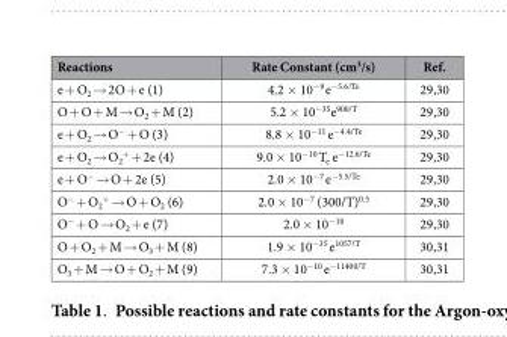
<table><thead><tr><td>Reactions</td><td>Rate Constant (cm<sup>3</sup>/s)</td><td>Ref.</td></tr></thead><tbody><tr><td>e + O<sub>2</sub> → 2O + e (1)</td><td>4.2 × 10<sup>−9</sup> e<sup>−5.6/Te</sup></td><td>29,30</td></tr><tr><td>O + O + M → O<sub>2</sub> + M (2)</td><td>5.2 × 10<sup>−35</sup>e<sup>900/T</sup></td><td>29,30</td></tr><tr><td>e + O<sub>2</sub> → O<sup>−</sup> + O (3)</td><td>8.8 × 10<sup>−11</sup> e<sup>−4.4/Te</sup></td><td>29,30</td></tr><tr><td>e + O<sub>2</sub> → O<sub>2</sub> <sup>+</sup> + 2e (4)</td><td>9.0 × 10<sup>−10</sup> T<sub>e</sub> e<sup>−12.6/Te</sup></td><td>29,30</td></tr><tr><td>e + O<sup>−</sup> → O + 2e (5)</td><td>2.0 × 10<sup>−7</sup> e<sup>−5.5/Te</sup></td><td>29,30</td></tr><tr><td>O<sup>−</sup> + O<sub>2</sub> <sup>+</sup> → O + O<sub>2</sub> (6)</td><td>2.0 × 10<sup>−7</sup> (300/T)<sup>0.5</sup></td><td>29,30</td></tr><tr><td>O<sup>−</sup> + O → O<sub>2</sub> + e (7)</td><td>2.0 × 10<sup>−10</sup></td><td>29,30</td></tr><tr><td>O + O<sub>2</sub> + M → O<sub>3</sub> + M (8)</td><td>1.9 × 10<sup>−35</sup> e<sup>1057/T</sup></td><td>30,31</td></tr><tr><td>O<sub>3</sub> + M → O + O<sub>2</sub> + M (9)</td><td>7.3 × 10<sup>−10</sup> e<sup>−11400/T</sup></td><td>30,31</td></tr></tbody></table>